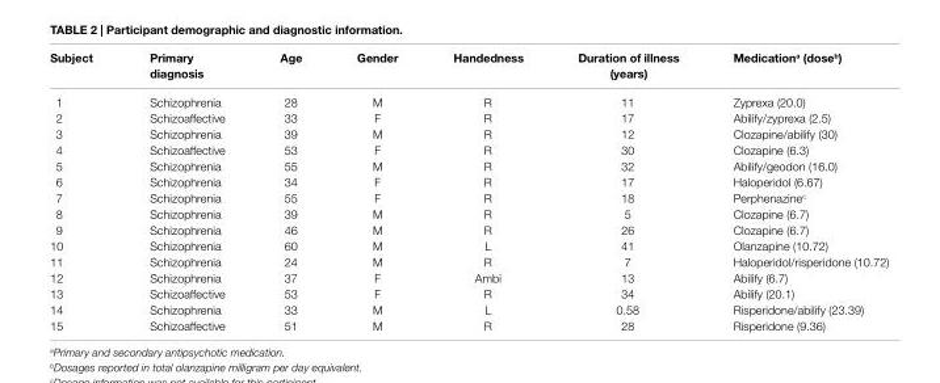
<table><thead><tr><td>subject</td><td>Primary diagnosis</td><td>age</td><td>gender</td><td>handedness</td><td>Duration of illness (years)</td><td>Medication<sup>a</sup> (dose<sup>b</sup>)</td></tr></thead><tbody><tr><td>1</td><td>Schizophrenia</td><td>28</td><td>M</td><td>R</td><td>11</td><td>Zyprexa (20.0)</td></tr><tr><td>2</td><td>Schizoaffective</td><td>33</td><td>F</td><td>R</td><td>17</td><td>Abilify/zyprexa (2.5)</td></tr><tr><td>3</td><td>Schizophrenia</td><td>39</td><td>M</td><td>R</td><td>12</td><td>Clozapine/abilify (30)</td></tr><tr><td>4</td><td>Schizoaffective</td><td>53</td><td>F</td><td>R</td><td>30</td><td>Clozapine (6.3)</td></tr><tr><td>5</td><td>Schizophrenia</td><td>55</td><td>M</td><td>R</td><td>32</td><td>Abilify/geodon (16.0)</td></tr><tr><td>6</td><td>Schizophrenia</td><td>34</td><td>F</td><td>R</td><td>17</td><td>Haloperidol (6.67)</td></tr><tr><td>7</td><td>Schizophrenia</td><td>55</td><td>F</td><td>R</td><td>18</td><td>Perphenazine<sup>c</sup></td></tr><tr><td>8</td><td>Schizophrenia</td><td>39</td><td>M</td><td>R</td><td>5</td><td>Clozapine (6.7)</td></tr><tr><td>9</td><td>Schizophrenia</td><td>46</td><td>M</td><td>R</td><td>26</td><td>Clozapine (6.7)</td></tr><tr><td>10</td><td>Schizophrenia</td><td>60</td><td>M</td><td>L</td><td>41</td><td>Olanzapine (10.72)</td></tr><tr><td>11</td><td>Schizophrenia</td><td>24</td><td>M</td><td>R</td><td>7</td><td>Haloperidol/risperidone (10.72)</td></tr><tr><td>12</td><td>Schizophrenia</td><td>37</td><td>F</td><td>Ambi</td><td>13</td><td>Abilify (6.7)</td></tr><tr><td>13</td><td>Schizoaffective</td><td>53</td><td>F</td><td>R</td><td>34</td><td>Abilify (20.1)</td></tr><tr><td>14</td><td>Schizophrenia</td><td>33</td><td>M</td><td>L</td><td>0.58</td><td>Risperidone/abilify (23.39)</td></tr><tr><td>15</td><td>Schizoaffective</td><td>51</td><td>M</td><td>R</td><td>28</td><td>Risperidone (9.36)</td></tr></tbody></table>